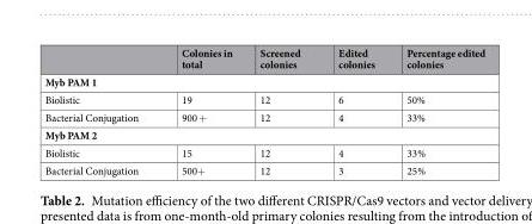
<table><thead><tr><td></td><td>Colonies in total</td><td>Screened colonies</td><td>Edited colonies</td><td>Percentage edited colonies</td></tr></thead><tbody><tr><td colspan="5">Myb PAM 1</td></tr><tr><td>Biolistic</td><td>19</td><td>12</td><td>6</td><td>50%</td></tr><tr><td>Bacterial Conjugation</td><td>900 +</td><td>12</td><td>4</td><td>33%</td></tr><tr><td colspan="5">Myb PAM 2</td></tr><tr><td>Biolistic</td><td>15</td><td>12</td><td>4</td><td>33%</td></tr><tr><td>Bacterial Conjugation</td><td>500+</td><td>12</td><td>3</td><td>25%</td></tr></tbody></table>